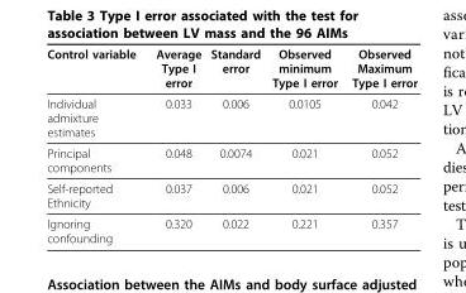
<table><thead><tr><td>Control variable</td><td>Average Type I error</td><td>Standard error</td><td>Observed minimum Type I error</td><td>Observed Maximum Type I error</td></tr></thead><tbody><tr><td>Individual admixture estimates</td><td>0.033</td><td>0.006</td><td>0.0105</td><td>0.042</td></tr><tr><td>Principal components</td><td>0.048</td><td>0.0074</td><td>0.021</td><td>0.052</td></tr><tr><td>Self-reported Ethnicity</td><td>0.037</td><td>0.006</td><td>0.021</td><td>0.052</td></tr><tr><td>Ignoring confounding</td><td>0.320</td><td>0.022</td><td>0.221</td><td>0.357</td></tr></tbody></table>